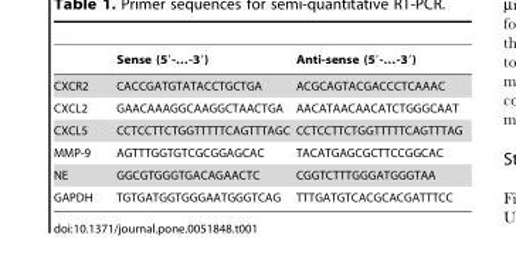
<table><thead><tr><td></td><td>Sense (5′-…-3′)</td><td>Anti-sense (5′-…-3′)</td></tr></thead><tbody><tr><td>CXCR2</td><td>CACCGATGTATACCTGCTGA</td><td>ACGCAGTACGACCCTCAAAC</td></tr><tr><td>CXCL2</td><td>GAACAAAGGCAAGGCTAACTGA</td><td>AACATAACAACATCTGGGCAAT</td></tr><tr><td>CXCL5</td><td>CCTCCTTCTGGTTTTTCAGTTTAGC</td><td>CCTCCTTCTGGTTTTTCAGTTTAG</td></tr><tr><td>MMP-9</td><td>AGTTTGGTGTCGCGGAGCAC</td><td>TACATGAGCGCTTCCGGCAC</td></tr><tr><td>NE</td><td>GGCGTGGGTGACAGAACTC</td><td>CGGTCTTTGGGATGGGTAA</td></tr><tr><td>GAPDH</td><td>TGTGATGGTGGGAATGGGTCAG</td><td>TTTGATGTCACGCACGATTTCC</td></tr></tbody></table>